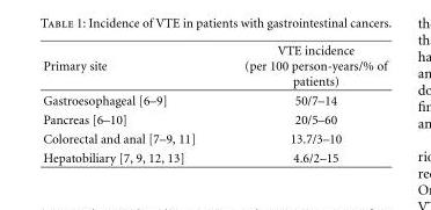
<table><thead><tr><td>Primary site</td><td>VTE incidence (per 100 person-years/% of patients)</td></tr></thead><tbody><tr><td>Gastroesophageal [6–9]</td><td>50/7–14</td></tr><tr><td>Pancreas [6–10]</td><td>20/5–60</td></tr><tr><td>Colorectal and anal [7–9, 11]</td><td>13.7/3–10</td></tr><tr><td>Hepatobiliary [7, 9, 12, 13]</td><td>4.6/2–15</td></tr></tbody></table>